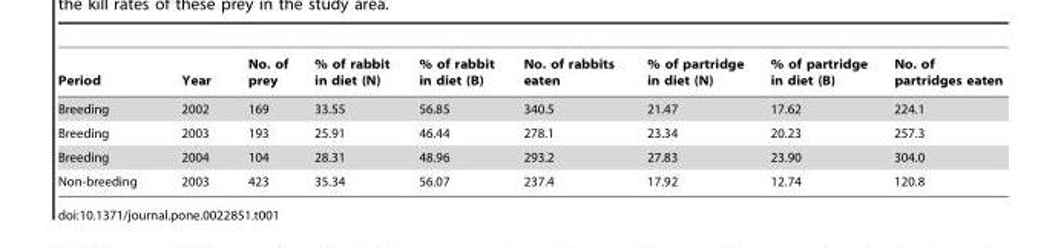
<table><thead><tr><td>Period</td><td>Year</td><td>No. of prey</td><td>% of rabbit in diet (N)</td><td>% of rabbit in diet (B)</td><td>No. of rabbits eaten</td><td>% of partridge in diet (N)</td><td>% of partridge in diet (B)</td><td>No. of partridges eaten</td></tr></thead><tbody><tr><td>Breeding</td><td>2002</td><td>169</td><td>33.55</td><td>56.85</td><td>340.5</td><td>21.47</td><td>17.62</td><td>224.1</td></tr><tr><td>Breeding</td><td>2003</td><td>193</td><td>25.91</td><td>46.44</td><td>278.1</td><td>23.34</td><td>20.23</td><td>257.3</td></tr><tr><td>Breeding</td><td>2004</td><td>104</td><td>28.31</td><td>48.96</td><td>293.2</td><td>27.83</td><td>23.90</td><td>304.0</td></tr><tr><td>Non-breeding</td><td>2003</td><td>423</td><td>35.34</td><td>56.07</td><td>237.4</td><td>17.92</td><td>12.74</td><td>120.8</td></tr></tbody></table>